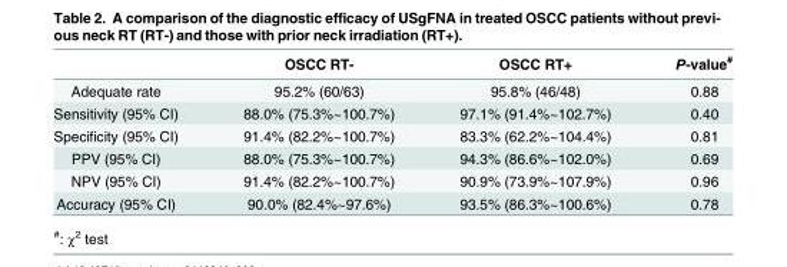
<table><thead><tr><td></td><td>OSCC RT-</td><td>OSCC RT+</td><td>P-value<sup>#</sup></td></tr></thead><tbody><tr><td>Adequate rate</td><td>95.2% (60/63)</td><td>95.8% (46/48)</td><td>0.88</td></tr><tr><td>Sensitivity (95% CI)</td><td>88.0% (75.3%~100.7%)</td><td>97.1% (91.4%~102.7%)</td><td>0.40</td></tr><tr><td>Specificity (95% CI)</td><td>91.4% (82.2%~100.7%)</td><td>83.3% (62.2%~104.4%)</td><td>0.81</td></tr><tr><td>PPV (95% CI)</td><td>88.0% (75.3%~100.7%)</td><td>94.3% (86.6%~102.0%)</td><td>0.69</td></tr><tr><td>NPV (95% CI)</td><td>91.4% (82.2%~100.7%)</td><td>90.9% (73.9%~107.9%)</td><td>0.96</td></tr><tr><td>Accuracy (95% CI)</td><td>90.0% (82.4%~97.6%)</td><td>93.5% (86.3%~100.6%)</td><td>0.78</td></tr></tbody></table>